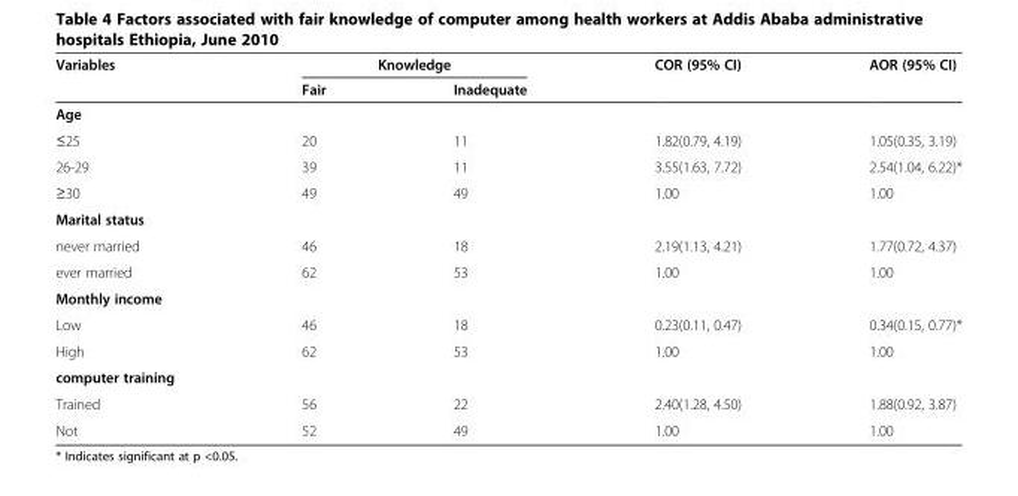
<table><thead><tr><td rowspan="2">Variables</td><td colspan="2">Knowledge</td><td rowspan="2">COR (95% CI)</td><td rowspan="2">AOR (95% CI)</td></tr><tr><td>Fair</td><td>Inadequate</td></tr></thead><tbody><tr><td colspan="5">Age</td></tr><tr><td>≤25</td><td>20</td><td>11</td><td>1.82(0.79, 4.19)</td><td>1.05(0.35, 3.19)</td></tr><tr><td>26-29</td><td>39</td><td>11</td><td>3.55(1.63, 7.72)</td><td>2.54(1.04, 6.22)*</td></tr><tr><td>≥30</td><td>49</td><td>49</td><td>1.00</td><td>1.00</td></tr><tr><td colspan="5">Marital status</td></tr><tr><td>never married</td><td>46</td><td>18</td><td>2.19(1.13, 4.21)</td><td>1.77(0.72, 4.37)</td></tr><tr><td>ever married</td><td>62</td><td>53</td><td>1.00</td><td>1.00</td></tr><tr><td colspan="5">Monthly income</td></tr><tr><td>Low</td><td>46</td><td>18</td><td>0.23(0.11, 0.47)</td><td>0.34(0.15, 0.77)*</td></tr><tr><td>High</td><td>62</td><td>53</td><td>1.00</td><td>1.00</td></tr><tr><td colspan="5">computer training</td></tr><tr><td>Trained</td><td>56</td><td>22</td><td>2.40(1.28, 4.50)</td><td>1.88(0.92, 3.87)</td></tr><tr><td>Not</td><td>52</td><td>49</td><td>1.00</td><td>1.00</td></tr></tbody></table>